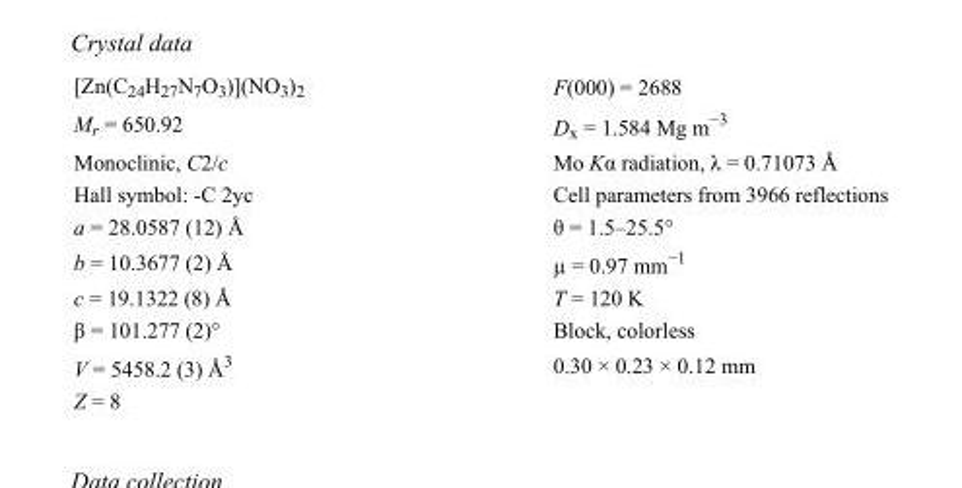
<table><tbody><tr><td>[Zn(C<sub>24</sub>H<sub>27</sub>N<sub>7</sub>O<sub>3</sub>)](NO<sub>3</sub>)<sub>2</sub></td><td>F(000) = 2688</td></tr><tr><td>M<sub>r</sub> = 650.92</td><td>D<sub>x</sub> = 1.584 Mg m<sup>−3</sup></td></tr><tr><td>Monoclinic, C2/c</td><td>Mo Kα radiation, λ = 0.71073 Å</td></tr><tr><td>Hall symbol: -C 2yc</td><td>Cell parameters from 3966 reflections</td></tr><tr><td>a = 28.0587 (12) Å</td><td>θ = 1.5–25.5°</td></tr><tr><td>b = 10.3677 (2) Å</td><td>µ = 0.97 mm<sup>−1</sup></td></tr><tr><td>c = 19.1322 (8) Å</td><td>T = 120 K</td></tr><tr><td>β = 101.277 (2)°</td><td>Block, colorless</td></tr><tr><td>V = 5458.2 (3) Å<sup>3</sup></td><td>0.30 × 0.23 × 0.12 mm</td></tr><tr><td>Z = 8</td><td></td></tr></tbody></table>